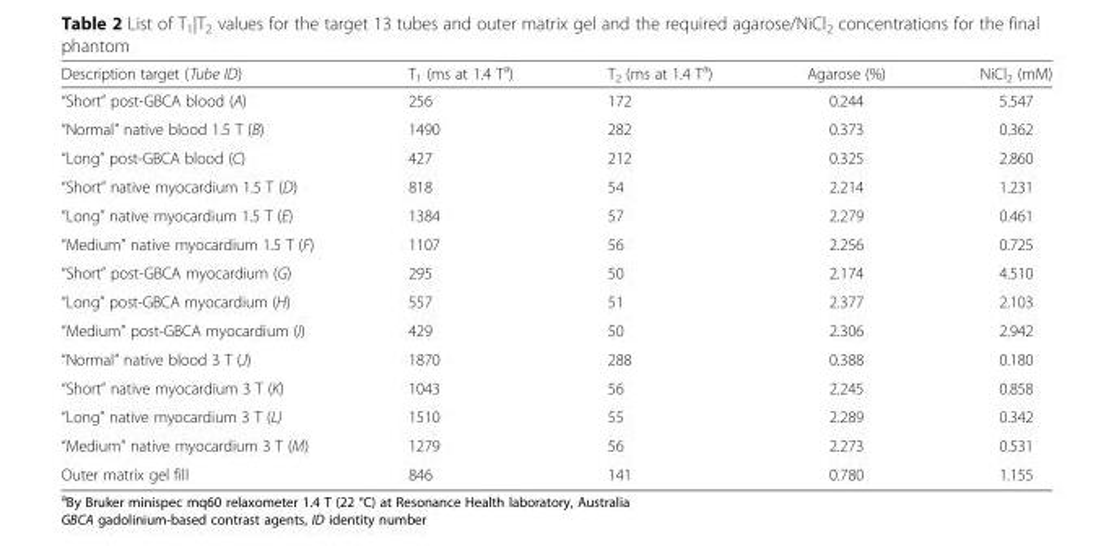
<table><thead><tr><td>Description target (Tube ID)</td><td>T<sub>1</sub> (ms at 1.4 T<sup>a</sup>)</td><td>T<sub>2</sub> (ms at 1.4 T<sup>a</sup>)</td><td>Agarose (%)</td><td>NiCl<sub>2</sub> (mM)</td></tr></thead><tbody><tr><td>“Short” post-GBCA blood (A)</td><td>256</td><td>172</td><td>0.244</td><td>5.547</td></tr><tr><td>“Normal” native blood 1.5 T (B)</td><td>1490</td><td>282</td><td>0.373</td><td>0.362</td></tr><tr><td>“Long” post-GBCA blood (C)</td><td>427</td><td>212</td><td>0.325</td><td>2.860</td></tr><tr><td>“Short” native myocardium 1.5 T (D)</td><td>818</td><td>54</td><td>2.214</td><td>1.231</td></tr><tr><td>“Long” native myocardium 1.5 T (E)</td><td>1384</td><td>57</td><td>2.279</td><td>0.461</td></tr><tr><td>“Medium” native myocardium 1.5 T (F)</td><td>1107</td><td>56</td><td>2.256</td><td>0.725</td></tr><tr><td>“Short” post-GBCA myocardium (G)</td><td>295</td><td>50</td><td>2.174</td><td>4.510</td></tr><tr><td>“Long” post-GBCA myocardium (H)</td><td>557</td><td>51</td><td>2.377</td><td>2.103</td></tr><tr><td>“Medium” post-GBCA myocardium (I)</td><td>429</td><td>50</td><td>2.306</td><td>2.942</td></tr><tr><td>“Normal” native blood 3 T (J)</td><td>1870</td><td>288</td><td>0.388</td><td>0.180</td></tr><tr><td>“Short” native myocardium 3 T (K)</td><td>1043</td><td>56</td><td>2.245</td><td>0.858</td></tr><tr><td>“Long” native myocardium 3 T (L)</td><td>1510</td><td>55</td><td>2.289</td><td>0.342</td></tr><tr><td>“Medium” native myocardium 3 T (M)</td><td>1279</td><td>56</td><td>2.273</td><td>0.531</td></tr><tr><td>Outer matrix gel fill</td><td>846</td><td>141</td><td>0.780</td><td>1.155</td></tr></tbody></table>